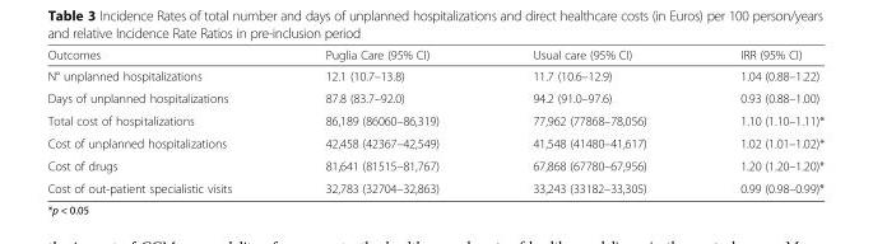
<table><thead><tr><td>Outcomes</td><td>Puglia Care (95% CI)</td><td>Usual care (95% CI)</td><td>IRR (95% CI)</td></tr></thead><tbody><tr><td>N° unplanned hospitalizations</td><td>12.1 (10.7–13.8)</td><td>11.7 (10.6–12.9)</td><td>1.04 (0.88–1.22)</td></tr><tr><td>Days of unplanned hospitalizations</td><td>87.8 (83.7–92.0)</td><td>94.2 (91.0–97.6)</td><td>0.93 (0.88–1.00)</td></tr><tr><td>Total cost of hospitalizations</td><td>86,189 (86060–86,319)</td><td>77,962 (77868–78,056)</td><td>1.10 (1.10–1.11)*</td></tr><tr><td>Cost of unplanned hospitalizations</td><td>42,458 (42367–42,549)</td><td>41,548 (41480–41,617)</td><td>1.02 (1.01–1.02)*</td></tr><tr><td>Cost of drugs</td><td>81,641 (81515–81,767)</td><td>67,868 (67780–67,956)</td><td>1.20 (1.20–1.20)*</td></tr><tr><td>Cost of out-patient specialistic visits</td><td>32,783 (32704–32,863)</td><td>33,243 (33182–33,305)</td><td>0.99 (0.98–0.99)*</td></tr></tbody></table>